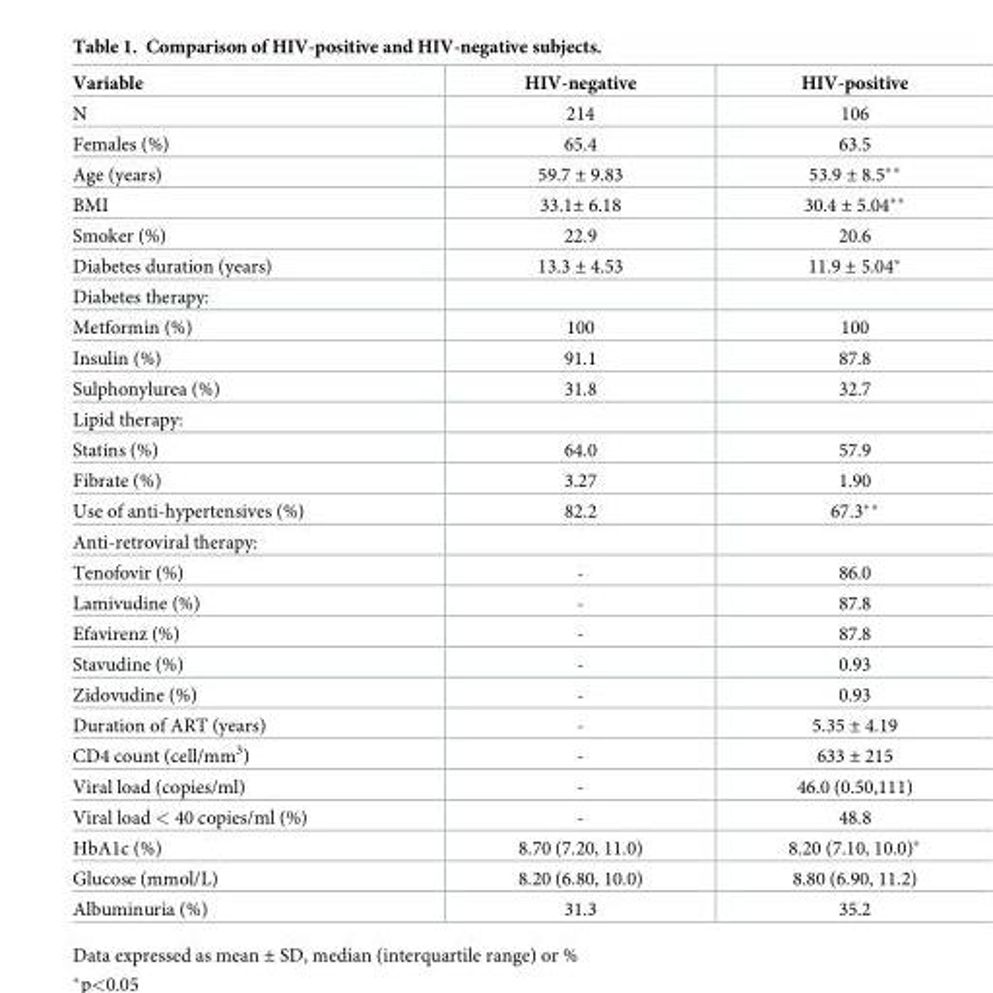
<table><thead><tr><td>Variable</td><td>HIV-negative</td><td>HIV-positive</td></tr></thead><tbody><tr><td>N</td><td>214</td><td>106</td></tr><tr><td>Females (%)</td><td>65.4</td><td>63.5</td></tr><tr><td>Age (years)</td><td>59.7 ± 9.83</td><td>53.9 ± 8.5**</td></tr><tr><td>BMI</td><td>33.1± 6.18</td><td>30.4 ± 5.04**</td></tr><tr><td>Smoker (%)</td><td>22.9</td><td>20.6</td></tr><tr><td>Diabetes duration (years)</td><td>13.3 ± 4.53</td><td>11.9 ± 5.04*</td></tr><tr><td colspan="3">Diabetes therapy:</td></tr><tr><td>Metformin (%)</td><td>100</td><td>100</td></tr><tr><td>Insulin (%)</td><td>91.1</td><td>87.8</td></tr><tr><td>Sulphonylurea (%)</td><td>31.8</td><td>32.7</td></tr><tr><td colspan="3">Lipid therapy:</td></tr><tr><td>Statins (%)</td><td>64.0</td><td>57.9</td></tr><tr><td>Fibrate (%)</td><td>3.27</td><td>1.90</td></tr><tr><td>Use of anti-hypertensives (%)</td><td>82.2</td><td>67.3**</td></tr><tr><td colspan="3">Anti-retroviral therapy:</td></tr><tr><td>Tenofovir (%)</td><td>-</td><td>86.0</td></tr><tr><td>Lamivudine (%)</td><td>-</td><td>87.8</td></tr><tr><td>Efavirenz (%)</td><td>-</td><td>87.8</td></tr><tr><td>Stavudine (%)</td><td>-</td><td>0.93</td></tr><tr><td>Zidovudine (%)</td><td>-</td><td>0.93</td></tr><tr><td>Duration of ART (years)</td><td>-</td><td>5.35 ± 4.19</td></tr><tr><td>CD4 count (cell/mm<sup>3</sup>)</td><td>-</td><td>633 ± 215</td></tr><tr><td>Viral load (copies/ml)</td><td>-</td><td>46.0 (0.50,111)</td></tr><tr><td>Viral load &lt; 40 copies/ml (%)</td><td>-</td><td>48.8</td></tr><tr><td>HbA1c (%)</td><td>8.70 (7.20, 11.0)</td><td>8.20 (7.10, 10.0)*</td></tr><tr><td>Glucose (mmol/L)</td><td>8.20 (6.80, 10.0)</td><td>8.80 (6.90, 11.2)</td></tr><tr><td>Albuminuria (%)</td><td>31.3</td><td>35.2</td></tr></tbody></table>